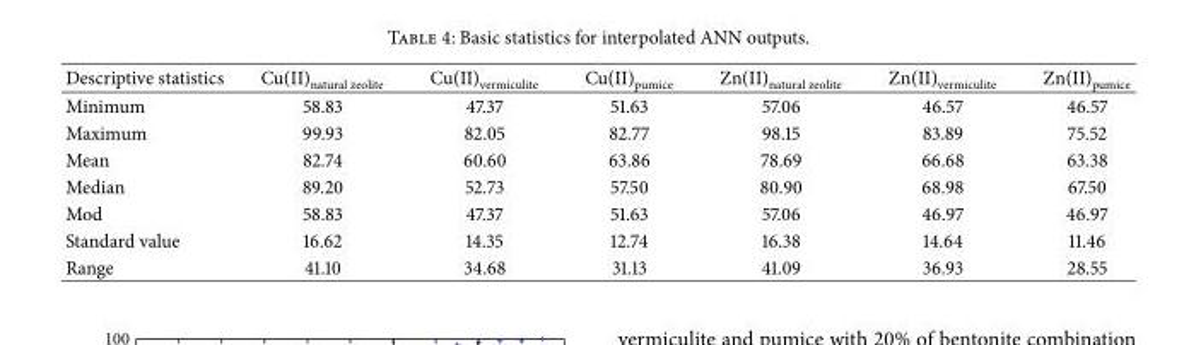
<table><thead><tr><td>Descriptive statistics</td><td>Cu(II)<sub>natural zeolite</sub></td><td>Cu(II)<sub>vermiculite</sub></td><td>Cu(II)<sub>pumice</sub></td><td>Zn(II)<sub>natural zeolite</sub></td><td>Zn(II)<sub>vermiculite</sub></td><td>Zn(II)<sub>pumice</sub></td></tr></thead><tbody><tr><td>Minimum</td><td>58.83</td><td>47.37</td><td>51.63</td><td>57.06</td><td>46.57</td><td>46.57</td></tr><tr><td>Maximum</td><td>99.93</td><td>82.05</td><td>82.77</td><td>98.15</td><td>83.89</td><td>75.52</td></tr><tr><td>Mean</td><td>82.74</td><td>60.60</td><td>63.86</td><td>78.69</td><td>66.68</td><td>63.38</td></tr><tr><td>Median</td><td>89.20</td><td>52.73</td><td>57.50</td><td>80.90</td><td>68.98</td><td>67.50</td></tr><tr><td>Mod</td><td>58.83</td><td>47.37</td><td>51.63</td><td>57.06</td><td>46.97</td><td>46.97</td></tr><tr><td>Standard value</td><td>16.62</td><td>14.35</td><td>12.74</td><td>16.38</td><td>14.64</td><td>11.46</td></tr><tr><td>Range</td><td>41.10</td><td>34.68</td><td>31.13</td><td>41.09</td><td>36.93</td><td>28.55</td></tr></tbody></table>